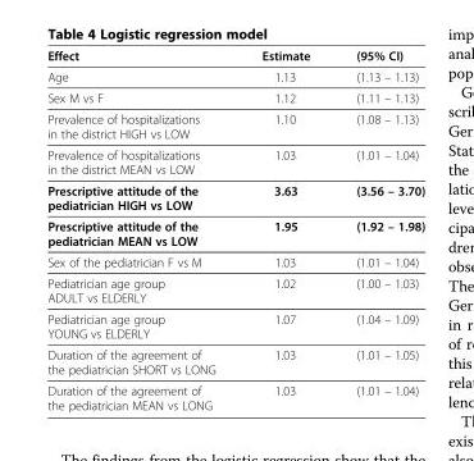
<table><thead><tr><td>Effect</td><td>Estimate</td><td>(95% CI)</td></tr></thead><tbody><tr><td>Age</td><td>1.13</td><td>(1.13 – 1.13)</td></tr><tr><td>Sex M vs F</td><td>1.12</td><td>(1.11 – 1.13)</td></tr><tr><td>Prevalence of hospitalizations in the district HIGH vs LOW</td><td>1.10</td><td>(1.08 – 1.13)</td></tr><tr><td>Prevalence of hospitalizations in the district MEAN vs LOW</td><td>1.03</td><td>(1.01 – 1.04)</td></tr><tr><td>Prescriptive attitude of the pediatrician HIGH vs LOW</td><td>3.63</td><td>(3.56 – 3.70)</td></tr><tr><td>Prescriptive attitude of the pediatrician MEAN vs LOW</td><td>1.95</td><td>(1.92 – 1.98)</td></tr><tr><td>Sex of the pediatrician F vs M</td><td>1.03</td><td>(1.01 – 1.04)</td></tr><tr><td>Pediatrician age group ADULT vs ELDERLY</td><td>1.02</td><td>(1.00 – 1.03)</td></tr><tr><td>Pediatrician age group YOUNG vs ELDERLY</td><td>1.07</td><td>(1.04 – 1.09)</td></tr><tr><td>Duration of the agreement of the pediatrician SHORT vs LONG</td><td>1.03</td><td>(1.01 – 1.05)</td></tr><tr><td>Duration of the agreement of the pediatrician MEAN vs LONG</td><td>1.03</td><td>(1.01 – 1.04)</td></tr></tbody></table>